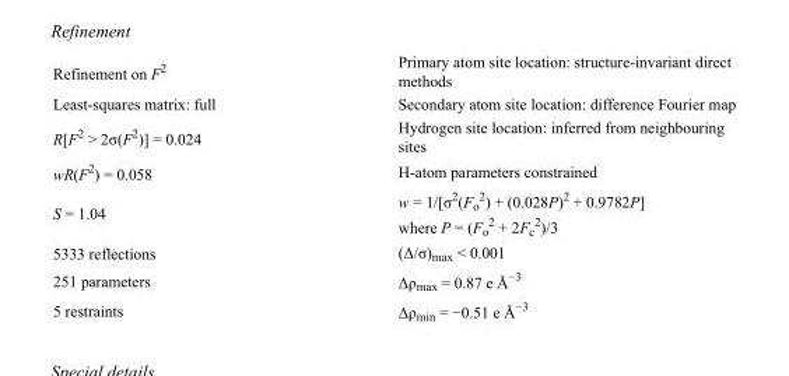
<table><tbody><tr><td>Refinement on F<sup>2</sup></td><td>Primary atom site location: structure-invariant direct methods</td></tr><tr><td>Least-squares matrix: full</td><td>Secondary atom site location: difference Fourier map</td></tr><tr><td>R[F<sup>2</sup> &gt; 2σ(F<sup>2</sup>)] = 0.024</td><td>Hydrogen site location: inferred from neighbouring sites</td></tr><tr><td>wR(F<sup>2</sup>) = 0.058</td><td>H-atom parameters constrained</td></tr><tr><td>S = 1.04</td><td>w = 1/[σ<sup>2</sup>(F<sub>o</sub> <sup>2</sup>) + (0.028P)<sup>2</sup> + 0.9782P] where P = (F<sub>o</sub> <sup>2</sup> + 2F<sub>c</sub> <sup>2</sup>)/3</td></tr><tr><td>5333 reflections</td><td>(Δ/σ)<sub>max</sub> &lt; 0.001</td></tr><tr><td>251 parameters</td><td>Δρ<sub>max</sub> = 0.87 e Å<sup>−3</sup></td></tr><tr><td>5 restraints</td><td>Δρ<sub>min</sub> = −0.51 e Å<sup>−3</sup></td></tr></tbody></table>